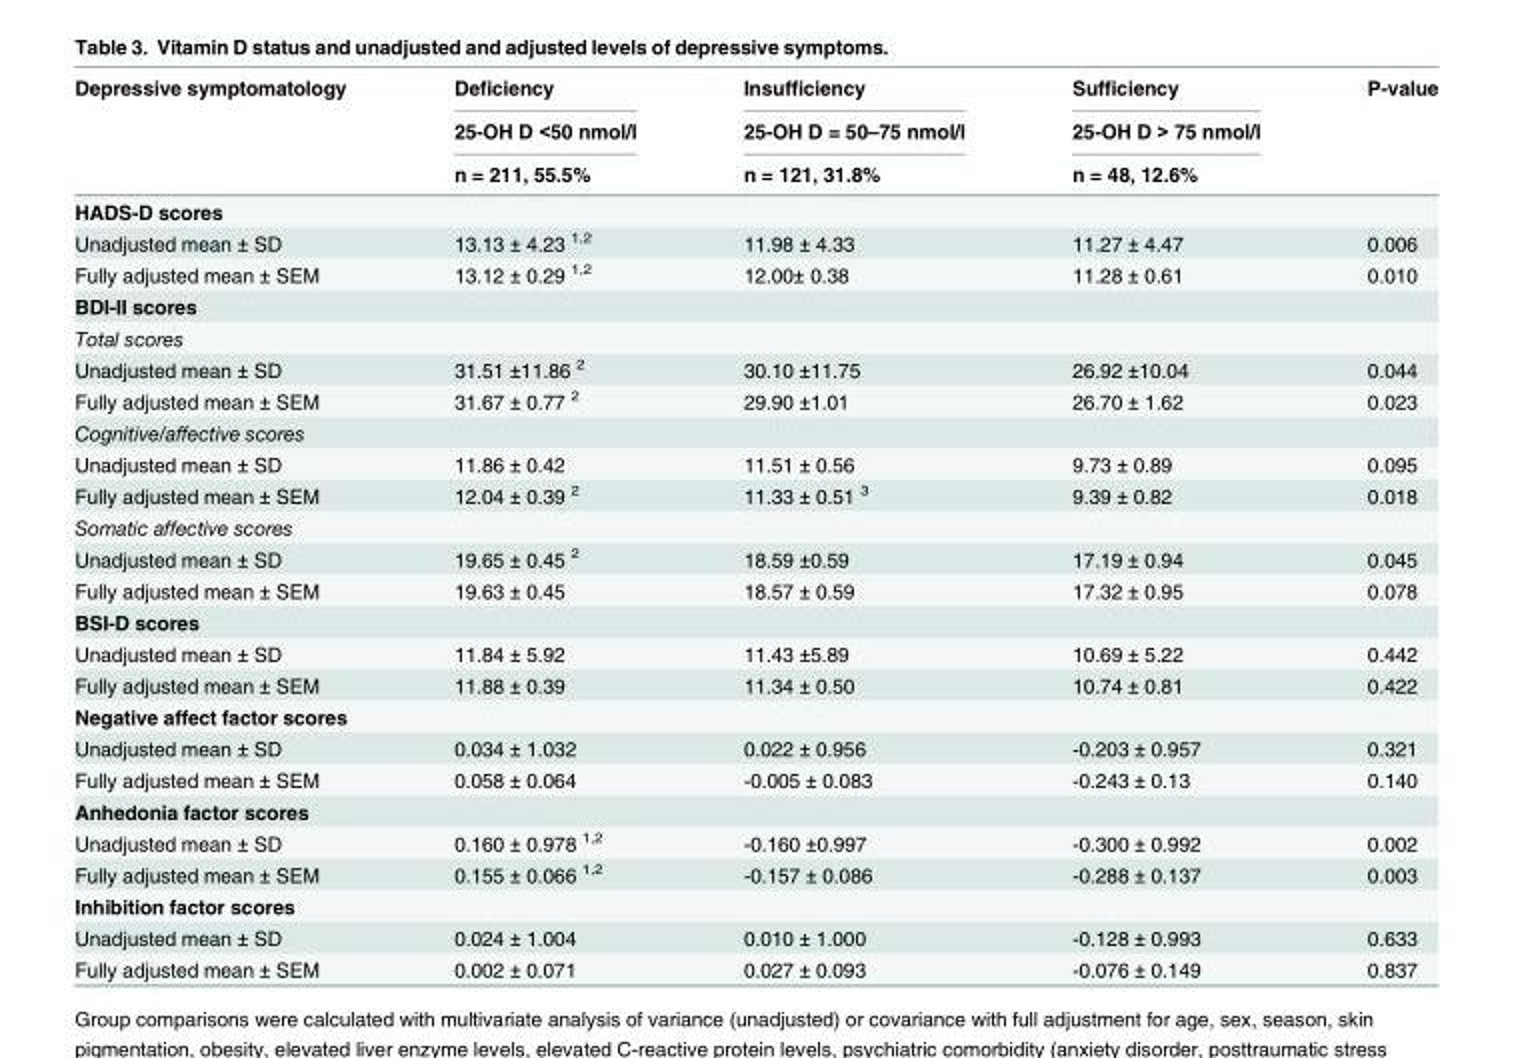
<table><thead><tr><td rowspan="3">Depressive symptomatology</td><td rowspan="3">Deficiency 25-OH D &lt;50 nmol/l n = 211, 55.5%</td><td rowspan="3">Insufficiency 25-OH D = 50–75 nmol/l n = 121, 31.8%</td><td rowspan="3">Sufficiency 25-OH D &gt; 75 nmol/l n = 48, 12.6%</td><td rowspan="3">P-value</td></tr><tr></tr><tr></tr></thead><tbody><tr><td colspan="5">HADS-D scores</td></tr><tr><td>Unadjusted mean ± SD</td><td>13.13 ± 4.23 <sup>1,2</sup></td><td>11.98 ± 4.33</td><td>11.27 ± 4.47</td><td>0.006</td></tr><tr><td>Fully adjusted mean ± SEM</td><td>13.12 ± 0.29 <sup>1,2</sup></td><td>12.00± 0.38</td><td>11.28 ± 0.61</td><td>0.010</td></tr><tr><td colspan="5">BDI-II scores</td></tr><tr><td colspan="5">Total scores</td></tr><tr><td>Unadjusted mean ± SD</td><td>31.51 ±11.86 <sup>2</sup></td><td>30.10 ±11.75</td><td>26.92 ±10.04</td><td>0.044</td></tr><tr><td>Fully adjusted mean ± SEM</td><td>31.67 ± 0.77 <sup>2</sup></td><td>29.90 ±1.01</td><td>26.70 ± 1.62</td><td>0.023</td></tr><tr><td colspan="5">Cognitive/affective scores</td></tr><tr><td>Unadjusted mean ± SD</td><td>11.86 ± 0.42</td><td>11.51 ± 0.56</td><td>9.73 ± 0.89</td><td>0.095</td></tr><tr><td>Fully adjusted mean ± SEM</td><td>12.04 ± 0.39 <sup>2</sup></td><td>11.33 ± 0.51 <sup>3</sup></td><td>9.39 ± 0.82</td><td>0.018</td></tr><tr><td colspan="5">Somatic affective scores</td></tr><tr><td>Unadjusted mean ± SD</td><td>19.65 ± 0.45 <sup>2</sup></td><td>18.59 ±0.59</td><td>17.19 ± 0.94</td><td>0.045</td></tr><tr><td>Fully adjusted mean ± SEM</td><td>19.63 ± 0.45</td><td>18.57 ± 0.59</td><td>17.32 ± 0.95</td><td>0.078</td></tr><tr><td colspan="5">BSI-D scores</td></tr><tr><td>Unadjusted mean ± SD</td><td>11.84 ± 5.92</td><td>11.43 ±5.89</td><td>10.69 ± 5.22</td><td>0.442</td></tr><tr><td>Fully adjusted mean ± SEM</td><td>11.88 ± 0.39</td><td>11.34 ± 0.50</td><td>10.74 ± 0.81</td><td>0.422</td></tr><tr><td colspan="5">Negative affect factor scores</td></tr><tr><td>Unadjusted mean ± SD</td><td>0.034 ± 1.032</td><td>0.022 ± 0.956</td><td>-0.203 ± 0.957</td><td>0.321</td></tr><tr><td>Fully adjusted mean ± SEM</td><td>0.058 ± 0.064</td><td>-0.005 ± 0.083</td><td>-0.243 ± 0.13</td><td>0.140</td></tr><tr><td colspan="5">Anhedonia factor scores</td></tr><tr><td>Unadjusted mean ± SD</td><td>0.160 ± 0.978 <sup>1,2</sup></td><td>-0.160 ±0.997</td><td>-0.300 ± 0.992</td><td>0.002</td></tr><tr><td>Fully adjusted mean ± SEM</td><td>0.155 ± 0.066 <sup>1,2</sup></td><td>-0.157 ± 0.086</td><td>-0.288 ± 0.137</td><td>0.003</td></tr><tr><td colspan="5">Inhibition factor scores</td></tr><tr><td>Unadjusted mean ± SD</td><td>0.024 ± 1.004</td><td>0.010 ± 1.000</td><td>-0.128 ± 0.993</td><td>0.633</td></tr><tr><td>Fully adjusted mean ± SEM</td><td>0.002 ± 0.071</td><td>0.027 ± 0.093</td><td>-0.076 ± 0.149</td><td>0.837</td></tr></tbody></table>